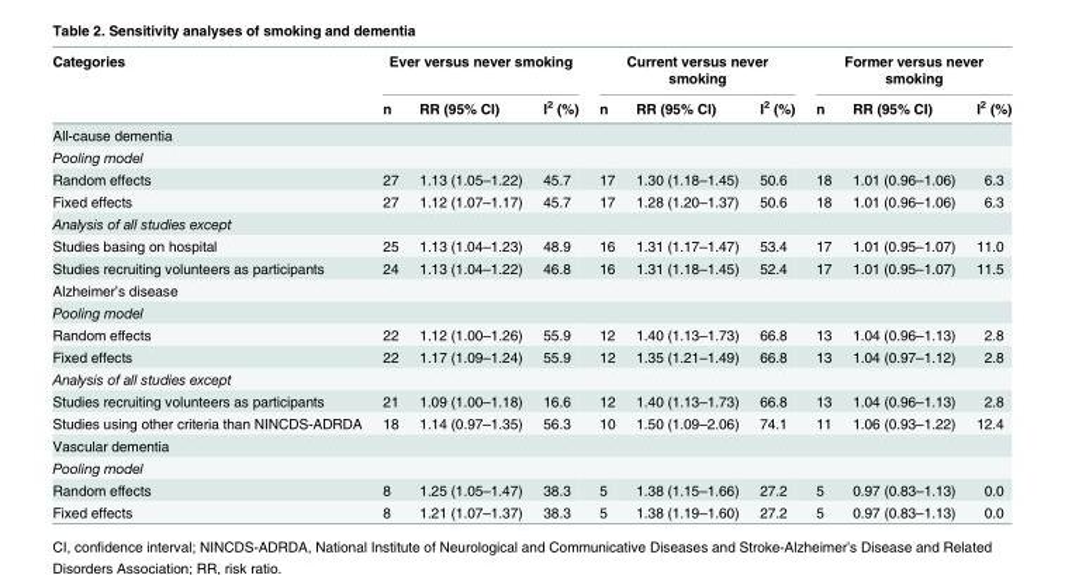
<table><thead><tr><td rowspan="2">Categories</td><td colspan="3">Ever versus never smoking</td><td colspan="3">Current versus never smoking</td><td colspan="3">Former versus never smoking</td></tr><tr><td>n</td><td>RR (95% CI)</td><td>I<sup>2</sup> (%)</td><td>n</td><td>RR (95% CI)</td><td>I<sup>2</sup> (%)</td><td>n</td><td>RR (95% CI)</td><td>I<sup>2</sup> (%)</td></tr></thead><tbody><tr><td colspan="10">All-cause dementia</td></tr><tr><td colspan="10">Pooling model</td></tr><tr><td>Random effects</td><td>27</td><td>1.13 (1.05–1.22)</td><td>45.7</td><td>17</td><td>1.30 (1.18–1.45)</td><td>50.6</td><td>18</td><td>1.01 (0.96–1.06)</td><td>6.3</td></tr><tr><td>Fixed effects</td><td>27</td><td>1.12 (1.07–1.17)</td><td>45.7</td><td>17</td><td>1.28 (1.20–1.37)</td><td>50.6</td><td>18</td><td>1.01 (0.96–1.06)</td><td>6.3</td></tr><tr><td colspan="10">Analysis of all studies except</td></tr><tr><td>Studies basing on hospital</td><td>25</td><td>1.13 (1.04–1.23)</td><td>48.9</td><td>16</td><td>1.31 (1.17–1.47)</td><td>53.4</td><td>17</td><td>1.01 (0.95–1.07)</td><td>11.0</td></tr><tr><td>Studies recruiting volunteers as participants</td><td>24</td><td>1.13 (1.04–1.22)</td><td>46.8</td><td>16</td><td>1.31 (1.18–1.45)</td><td>52.4</td><td>17</td><td>1.01 (0.95–1.07)</td><td>11.5</td></tr><tr><td colspan="10">Alzheimer’s disease</td></tr><tr><td colspan="10">Pooling model</td></tr><tr><td>Random effects</td><td>22</td><td>1.12 (1.00–1.26)</td><td>55.9</td><td>12</td><td>1.40 (1.13–1.73)</td><td>66.8</td><td>13</td><td>1.04 (0.96–1.13)</td><td>2.8</td></tr><tr><td>Fixed effects</td><td>22</td><td>1.17 (1.09–1.24)</td><td>55.9</td><td>12</td><td>1.35 (1.21–1.49)</td><td>66.8</td><td>13</td><td>1.04 (0.97–1.12)</td><td>2.8</td></tr><tr><td colspan="10">Analysis of all studies except</td></tr><tr><td>Studies recruiting volunteers as participants</td><td>21</td><td>1.09 (1.00–1.18)</td><td>16.6</td><td>12</td><td>1.40 (1.13–1.73)</td><td>66.8</td><td>13</td><td>1.04 (0.96–1.13)</td><td>2.8</td></tr><tr><td>Studies using other criteria than NINCDS-ADRDA</td><td>18</td><td>1.14 (0.97–1.35)</td><td>56.3</td><td>10</td><td>1.50 (1.09–2.06)</td><td>74.1</td><td>11</td><td>1.06 (0.93–1.22)</td><td>12.4</td></tr><tr><td colspan="10">Vascular dementia</td></tr><tr><td colspan="10">Pooling model</td></tr><tr><td>Random effects</td><td>8</td><td>1.25 (1.05–1.47)</td><td>38.3</td><td>5</td><td>1.38 (1.15–1.66)</td><td>27.2</td><td>5</td><td>0.97 (0.83–1.13)</td><td>0.0</td></tr><tr><td>Fixed effects</td><td>8</td><td>1.21 (1.07–1.37)</td><td>38.3</td><td>5</td><td>1.38 (1.19–1.60)</td><td>27.2</td><td>5</td><td>0.97 (0.83–1.13)</td><td>0.0</td></tr></tbody></table>